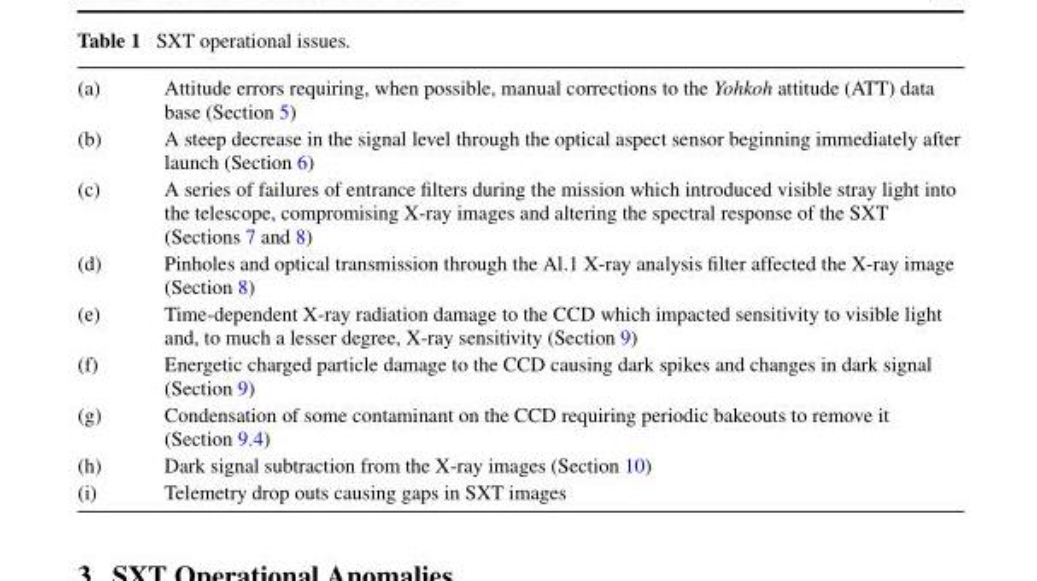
<table><tbody><tr><td>(a)</td><td>Attitude errors requiring, when possible, manual corrections to the Yohkoh attitude (ATT) data base (Section 5)</td></tr><tr><td>(b)</td><td>A steep decrease in the signal level through the optical aspect sensor beginning immediately after launch (Section 6)</td></tr><tr><td>(c)</td><td>A series of failures of entrance filters during the mission which introduced visible stray light into the telescope, compromising X-ray images and altering the spectral response of the SXT (Sections 7 and 8)</td></tr><tr><td>(d)</td><td>Pinholes and optical transmission through the Al.1 X-ray analysis filter affected the X-ray image (Section 8)</td></tr><tr><td>(e)</td><td>Time-dependent X-ray radiation damage to the CCD which impacted sensitivity to visible light and, to much a lesser degree, X-ray sensitivity (Section 9)</td></tr><tr><td>(f)</td><td>Energetic charged particle damage to the CCD causing dark spikes and changes in dark signal (Section 9)</td></tr><tr><td>(g)</td><td>Condensation of some contaminant on the CCD requiring periodic bakeouts to remove it (Section 9.4)</td></tr><tr><td>(h)</td><td>Dark signal subtraction from the X-ray images (Section 10)</td></tr><tr><td>(i)</td><td>Telemetry drop outs causing gaps in SXT images</td></tr></tbody></table>